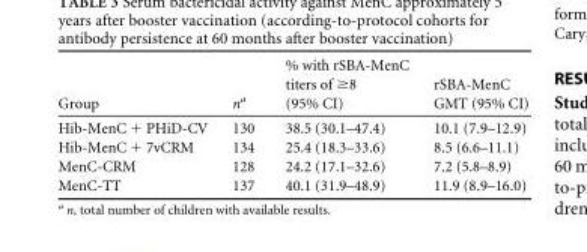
<table><thead><tr><td>Group</td><td>n<sup>a</sup></td><td>% with rSBA-MenC titers of ≥8 (95% CI)</td><td>rSBA-MenC GMT (95% CI)</td></tr></thead><tbody><tr><td>Hib-MenC + PHiD-CV</td><td>130</td><td>38.5 (30.1–47.4)</td><td>10.1 (7.9–12.9)</td></tr><tr><td>Hib-MenC + 7vCRM</td><td>134</td><td>25.4 (18.3–33.6)</td><td>8.5 (6.6–11.1)</td></tr><tr><td>MenC-CRM</td><td>128</td><td>24.2 (17.1–32.6)</td><td>7.2 (5.8–8.9)</td></tr><tr><td>MenC-TT</td><td>137</td><td>40.1 (31.9–48.9)</td><td>11.9 (8.9–16.0)</td></tr></tbody></table>